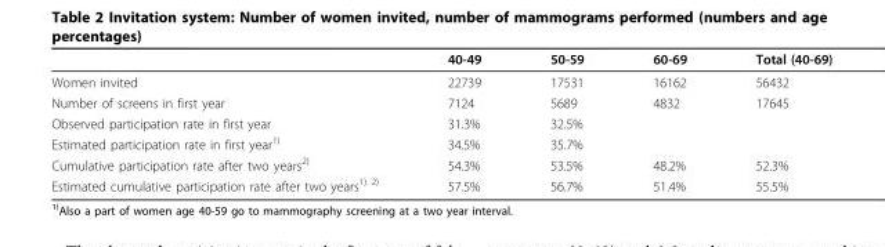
<table><thead><tr><td></td><td>40-49</td><td>50-59</td><td>60-69</td><td>Total (40-69)</td></tr></thead><tbody><tr><td>Women invited</td><td>22739</td><td>17531</td><td>16162</td><td>56432</td></tr><tr><td>Number of screens in first year</td><td>7124</td><td>5689</td><td>4832</td><td>17645</td></tr><tr><td>Observed participation rate in first year</td><td>31.3%</td><td>32.5%</td><td></td><td></td></tr><tr><td>Estimated participation rate in first year<sup>1)</sup></td><td>34.5%</td><td>35.7%</td><td></td><td></td></tr><tr><td>Cumulative participation rate after two years<sup>2)</sup></td><td>54.3%</td><td>53.5%</td><td>48.2%</td><td>52.3%</td></tr><tr><td>Estimated cumulative participation rate after two years<sup>1) 2)</sup></td><td>57.5%</td><td>56.7%</td><td>51.4%</td><td>55.5%</td></tr></tbody></table>